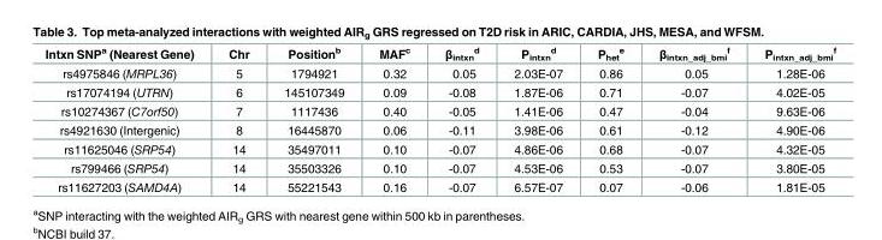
<table><thead><tr><td>Intxn SNP<sup>a</sup> (Nearest Gene)</td><td>Chr</td><td>Position<sup>b</sup></td><td>MAF<sup>c</sup></td><td>β<sub>intxn</sub> <sup>d</sup></td><td>P<sub>intxn</sub> <sup>d</sup></td><td>P<sub>het</sub> <sup>e</sup></td><td>β<sub>intxn_adj_bmi</sub> <sup>f</sup></td><td>P<sub>intxn_adj_bmi</sub> <sup>f</sup></td></tr></thead><tbody><tr><td>rs4975846 (MRPL36)</td><td>5</td><td>1794921</td><td>0.32</td><td>0.05</td><td>2.03E-07</td><td>0.86</td><td>0.05</td><td>1.28E-06</td></tr><tr><td>rs17074194 (UTRN)</td><td>6</td><td>145107349</td><td>0.09</td><td>-0.08</td><td>1.87E-06</td><td>0.71</td><td>-0.07</td><td>4.02E-05</td></tr><tr><td>rs10274367 (C7orf50)</td><td>7</td><td>1117436</td><td>0.40</td><td>-0.05</td><td>1.41E-06</td><td>0.47</td><td>-0.04</td><td>9.63E-06</td></tr><tr><td>rs4921630 (Intergenic)</td><td>8</td><td>16445870</td><td>0.06</td><td>-0.11</td><td>3.98E-06</td><td>0.61</td><td>-0.12</td><td>4.90E-06</td></tr><tr><td>rs11625046 (SRP54)</td><td>14</td><td>35497011</td><td>0.10</td><td>-0.07</td><td>4.86E-06</td><td>0.68</td><td>-0.07</td><td>4.32E-05</td></tr><tr><td>rs799466 (SRP54)</td><td>14</td><td>35503326</td><td>0.10</td><td>-0.07</td><td>4.53E-06</td><td>0.53</td><td>-0.07</td><td>3.80E-05</td></tr><tr><td>rs11627203 (SAMD4A)</td><td>14</td><td>55221543</td><td>0.16</td><td>-0.07</td><td>6.57E-07</td><td>0.07</td><td>-0.06</td><td>1.81E-05</td></tr></tbody></table>